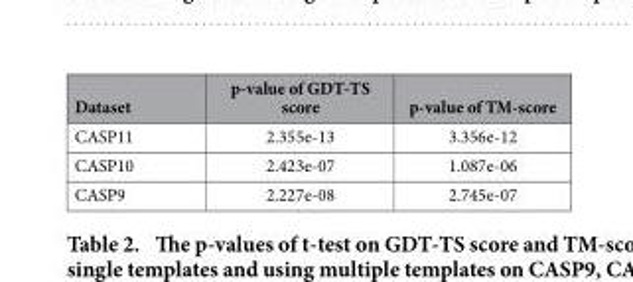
<table><thead><tr><td>Dataset</td><td>p-value of GDT-TS score</td><td>p-value of TM-score</td></tr></thead><tbody><tr><td>CASP11</td><td>2.355e-13</td><td>3.356e-12</td></tr><tr><td>CASP10</td><td>2.423e-07</td><td>1.087e-06</td></tr><tr><td>CASP9</td><td>2.227e-08</td><td>2.745e-07</td></tr></tbody></table>